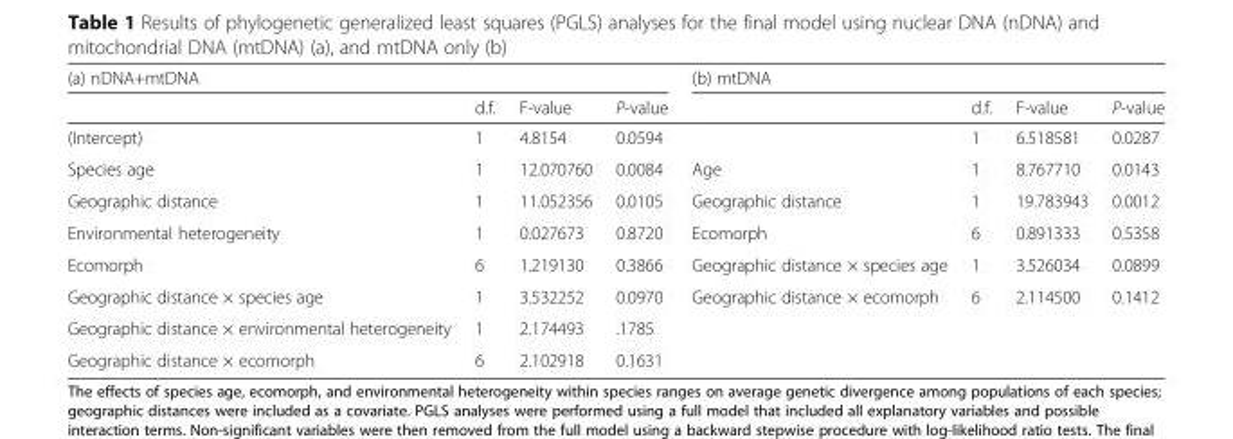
<table><thead><tr><td colspan="4">(a) nDNA+mtDNA</td><td colspan="4">(b) mtDNA</td></tr><tr><td></td><td>d.f.</td><td>F-value</td><td>P-value</td><td></td><td>d.f.</td><td>F-value</td><td>P-value</td></tr></thead><tbody><tr><td>(Intercept)</td><td>1</td><td>4.8154</td><td>0.0594</td><td></td><td>1</td><td>6.518581</td><td>0.0287</td></tr><tr><td>Species age</td><td>1</td><td>12.070760</td><td>0.0084</td><td>Age</td><td>1</td><td>8.767710</td><td>0.0143</td></tr><tr><td>Geographic distance</td><td>1</td><td>11.052356</td><td>0.0105</td><td>Geographic distance</td><td>1</td><td>19.783943</td><td>0.0012</td></tr><tr><td>Environmental heterogeneity</td><td>1</td><td>0.027673</td><td>0.8720</td><td>Ecomorph</td><td>6</td><td>0.891333</td><td>0.5358</td></tr><tr><td>Ecomorph</td><td>6</td><td>1.219130</td><td>0.3866</td><td>Geographic distance × species age</td><td>1</td><td>3.526034</td><td>0.0899</td></tr><tr><td>Geographic distance × species age</td><td>1</td><td>3.532252</td><td>0.0970</td><td>Geographic distance × ecomorph</td><td>6</td><td>2.114500</td><td>0.1412</td></tr><tr><td>Geographic distance × environmental heterogeneity</td><td>1</td><td>2.174493</td><td>.1785</td><td></td><td></td><td></td><td></td></tr><tr><td>Geographic distance × ecomorph</td><td>6</td><td>2.102918</td><td>0.1631</td><td></td><td></td><td></td><td></td></tr></tbody></table>